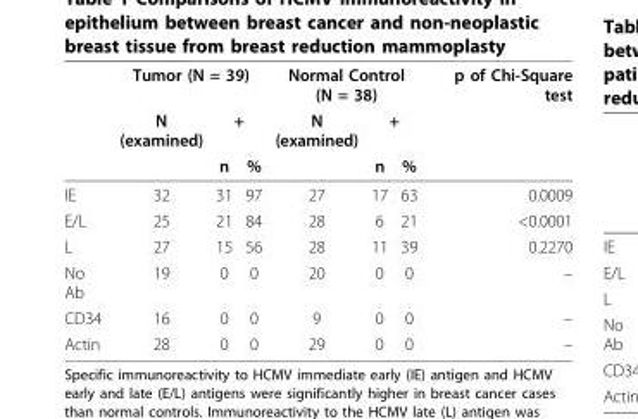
<table><thead><tr><td rowspan="3"></td><td colspan="3">Tumor (N = 39)</td><td colspan="3">Normal Control (N = 38)</td><td rowspan="3">p of Chi-Square test</td></tr><tr><td rowspan="2">N (examined)</td><td colspan="2">+</td><td rowspan="2">N (examined)</td><td colspan="2">+</td></tr><tr><td>n</td><td>%</td><td>n</td><td>%</td></tr></thead><tbody><tr><td>IE</td><td>32</td><td>31</td><td>97</td><td>27</td><td>17</td><td>63</td><td>0.0009</td></tr><tr><td>E/L</td><td>25</td><td>21</td><td>84</td><td>28</td><td>6</td><td>21</td><td>&lt;0.0001</td></tr><tr><td>L</td><td>27</td><td>15</td><td>56</td><td>28</td><td>11</td><td>39</td><td>0.2270</td></tr><tr><td>No Ab</td><td>19</td><td>0</td><td>0</td><td>20</td><td>0</td><td>0</td><td>–</td></tr><tr><td>CD34</td><td>16</td><td>0</td><td>0</td><td>9</td><td>0</td><td>0</td><td>–</td></tr><tr><td>Actin</td><td>28</td><td>0</td><td>0</td><td>29</td><td>0</td><td>0</td><td>–</td></tr></tbody></table>